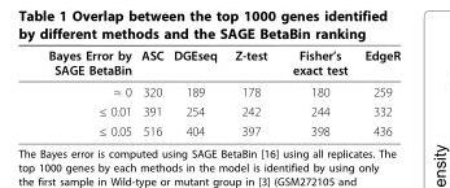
<table><thead><tr><td>Bayes Error by SAGE BetaBin</td><td>ASC</td><td>DGEseq</td><td>Z-test</td><td>Fisher’s exact test</td><td>EdgeR</td></tr></thead><tbody><tr><td>≈ 0</td><td>320</td><td>189</td><td>178</td><td>180</td><td>259</td></tr><tr><td>≤ 0.01</td><td>391</td><td>254</td><td>242</td><td>244</td><td>332</td></tr><tr><td>≤ 0.05</td><td>516</td><td>404</td><td>397</td><td>398</td><td>436</td></tr></tbody></table>